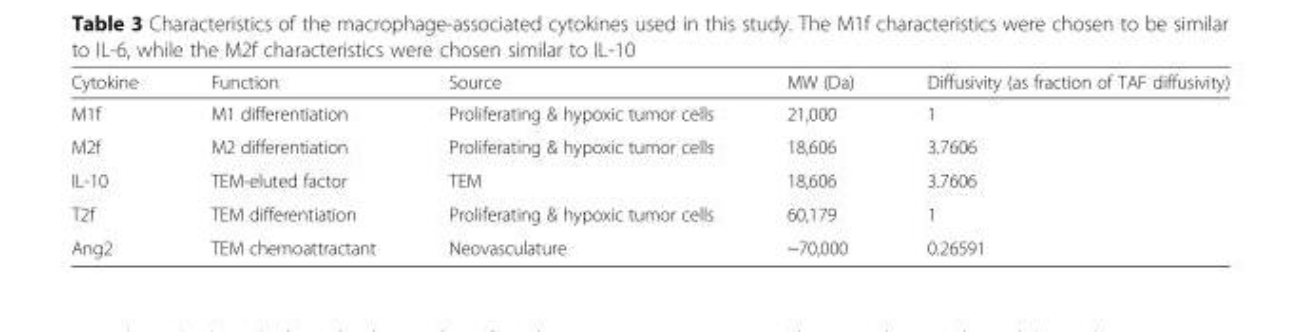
<table><thead><tr><td>Cytokine</td><td>Function</td><td>Source</td><td>MW (Da)</td><td>Diffusivity (as fraction of TAF diffusivity)</td></tr></thead><tbody><tr><td>M1f</td><td>M1 differentiation</td><td>Proliferating &amp; hypoxic tumor cells</td><td>21,000</td><td>1</td></tr><tr><td>M2f</td><td>M2 differentiation</td><td>Proliferating &amp; hypoxic tumor cells</td><td>18,606</td><td>3.7606</td></tr><tr><td>IL-10</td><td>TEM-eluted factor</td><td>TEM</td><td>18,606</td><td>3.7606</td></tr><tr><td>T2f</td><td>TEM differentiation</td><td>Proliferating &amp; hypoxic tumor cells</td><td>60,179</td><td>1</td></tr><tr><td>Ang2</td><td>TEM chemoattractant</td><td>Neovasculature</td><td>~70,000</td><td>0.26591</td></tr></tbody></table>